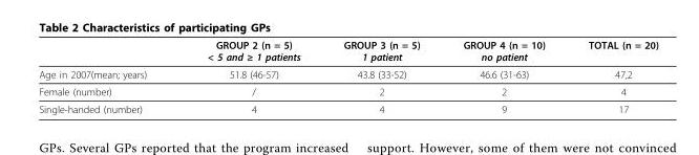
<table><thead><tr><td></td><td>GROUP 2 (n = 5) &lt; 5 and ≥ 1 patients</td><td>GROUP 3 (n = 5) 1 patient</td><td>GROUP 4 (n = 10) no patient</td><td>TOTAL (n = 20)</td></tr></thead><tbody><tr><td>Age in 2007(mean; years)</td><td>51.8 (46-57)</td><td>43.8 (33-52)</td><td>46.6 (31-63)</td><td>47,2</td></tr><tr><td>Female (number)</td><td>/</td><td>2</td><td>2</td><td>4</td></tr><tr><td>Single-handed (number)</td><td>4</td><td>4</td><td>9</td><td>17</td></tr></tbody></table>